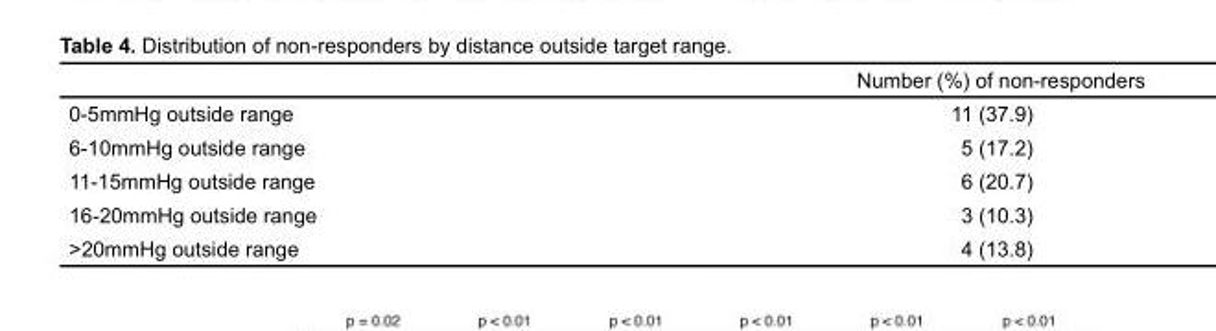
<table><thead><tr><td></td><td>Number (%) of non-responders</td></tr></thead><tbody><tr><td>0-5mmHg outside range</td><td>11 (37.9)</td></tr><tr><td>6-10mmHg outside range</td><td>5 (17.2)</td></tr><tr><td>11-15mmHg outside range</td><td>6 (20.7)</td></tr><tr><td>16-20mmHg outside range</td><td>3 (10.3)</td></tr><tr><td>&gt;20mmHg outside range</td><td>4 (13.8)</td></tr></tbody></table>